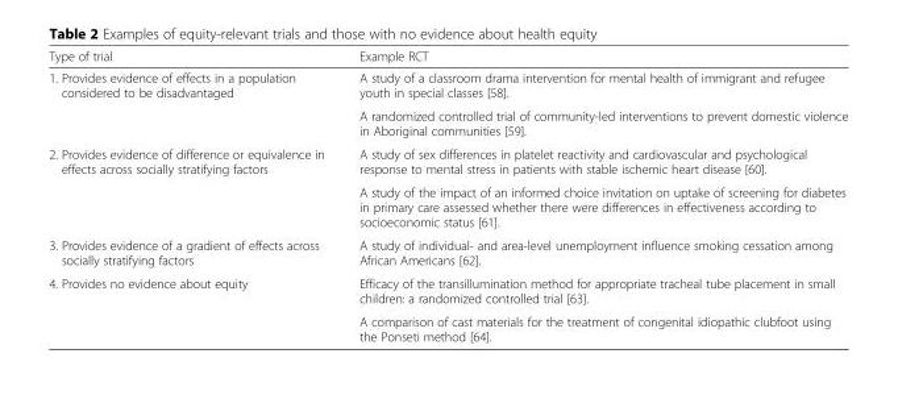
<table><thead><tr><td>Type of trial</td><td>Example RCT</td></tr></thead><tbody><tr><td rowspan="2">1. Provides evidence of effects in a population considered to be disadvantaged</td><td>A study of a classroom drama intervention for mental health of immigrant and refugee youth in special classes [58].</td></tr><tr><td>A randomized controlled trial of community-led interventions to prevent domestic violence in Aboriginal communities [59].</td></tr><tr><td rowspan="2">2. Provides evidence of difference or equivalence in effects across socially stratifying factors</td><td>A study of sex differences in platelet reactivity and cardiovascular and psychological response to mental stress in patients with stable ischemic heart disease [60].</td></tr><tr><td>A study of the impact of an informed choice invitation on uptake of screening for diabetes in primary care assessed whether there were differences in effectiveness according to socioeconomic status [61].</td></tr><tr><td>3. Provides evidence of a gradient of effects across socially stratifying factors</td><td>A study of individual- and area-level unemployment influence smoking cessation among African Americans [62].</td></tr><tr><td rowspan="2">4. Provides no evidence about equity</td><td>Efficacy of the transillumination method for appropriate tracheal tube placement in small children: a randomized controlled trial [63].</td></tr><tr><td>A comparison of cast materials for the treatment of congenital idiopathic clubfoot using the Ponseti method [64].</td></tr></tbody></table>